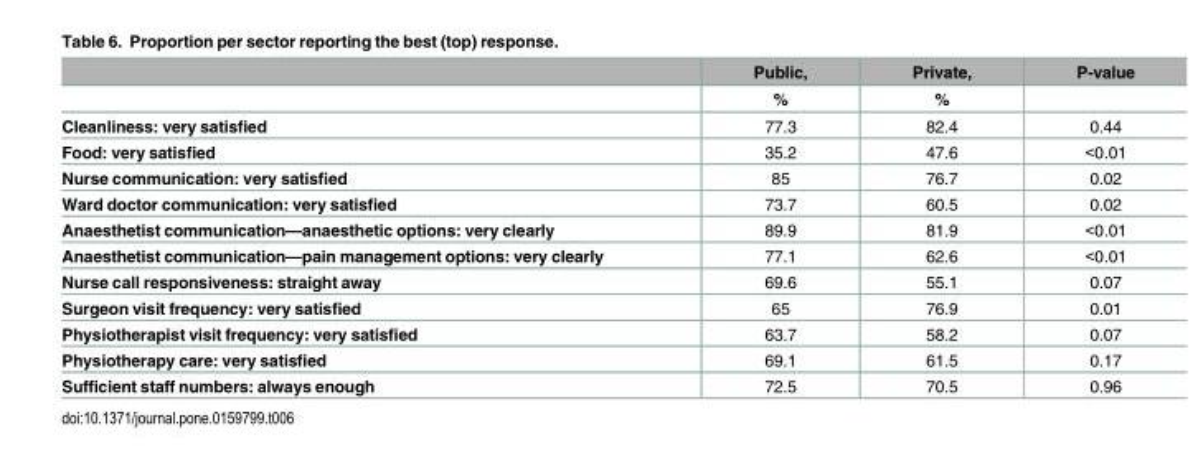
<table><thead><tr><td rowspan="2"></td><td rowspan="2">Public, %</td><td rowspan="2">Private, %</td><td rowspan="2">P-value</td></tr><tr></tr></thead><tbody><tr><td>Cleanliness: very satisfied</td><td>77.3</td><td>82.4</td><td>0.44</td></tr><tr><td>Food: very satisfied</td><td>35.2</td><td>47.6</td><td>&lt;0.01</td></tr><tr><td>Nurse communication: very satisfied</td><td>85</td><td>76.7</td><td>0.02</td></tr><tr><td>Ward doctor communication: very satisfied</td><td>73.7</td><td>60.5</td><td>0.02</td></tr><tr><td>Anaesthetist communication—anaesthetic options: very clearly</td><td>89.9</td><td>81.9</td><td>&lt;0.01</td></tr><tr><td>Anaesthetist communication—pain management options: very clearly</td><td>77.1</td><td>62.6</td><td>&lt;0.01</td></tr><tr><td>Nurse call responsiveness: straight away</td><td>69.6</td><td>55.1</td><td>0.07</td></tr><tr><td>Surgeon visit frequency: very satisfied</td><td>65</td><td>76.9</td><td>0.01</td></tr><tr><td>Physiotherapist visit frequency: very satisfied</td><td>63.7</td><td>58.2</td><td>0.07</td></tr><tr><td>Physiotherapy care: very satisfied</td><td>69.1</td><td>61.5</td><td>0.17</td></tr><tr><td>Sufficient staff numbers: always enough</td><td>72.5</td><td>70.5</td><td>0.96</td></tr></tbody></table>